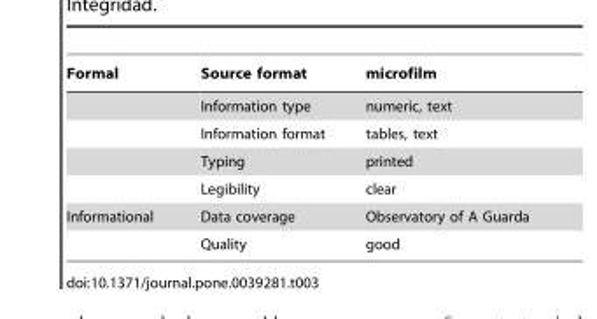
<table><thead><tr><td>Formal</td><td>Source format</td><td>microfilm</td></tr></thead><tbody><tr><td></td><td>Information type</td><td>numeric, text</td></tr><tr><td></td><td>Information format</td><td>tables, text</td></tr><tr><td></td><td>Typing</td><td>printed</td></tr><tr><td></td><td>Legibility</td><td>clear</td></tr><tr><td rowspan="2">Informational</td><td>Data coverage</td><td>Observatory of A Guarda</td></tr><tr><td>Quality</td><td>good</td></tr></tbody></table>